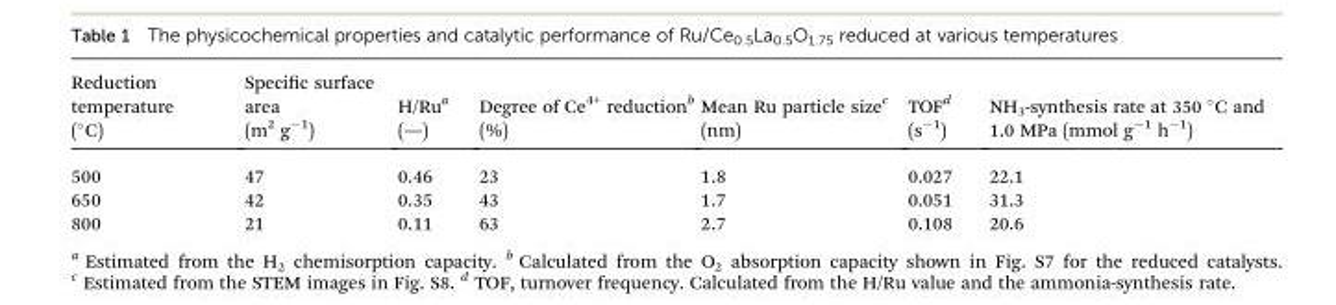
<table><thead><tr><td>Reduction temperature (°C)</td><td>Specic surface area (m2 g�1)</td><td>H/Ru<sup>a</sup> (—)</td><td>Degree of Ce<sup>4+</sup> reduction<sup>b</sup> (%)</td><td>Mean Ru particle size<sup>c</sup> (nm)</td><td>TOF<sup>d</sup> (s<sup>–1</sup>)</td><td>NH<sub>3</sub>-synthesis rate at 350 °C and 1.0 MPa (mmol g<sup>–1</sup> h<sup>–1</sup>)</td></tr></thead><tbody><tr><td>500</td><td>47</td><td>0.46</td><td>23</td><td>1.8</td><td>0.027</td><td>22.1</td></tr><tr><td>650</td><td>42</td><td>0.35</td><td>43</td><td>1.7</td><td>0.051</td><td>31.3</td></tr><tr><td>800</td><td>21</td><td>0.11</td><td>63</td><td>2.7</td><td>0.108</td><td>20.6</td></tr></tbody></table>